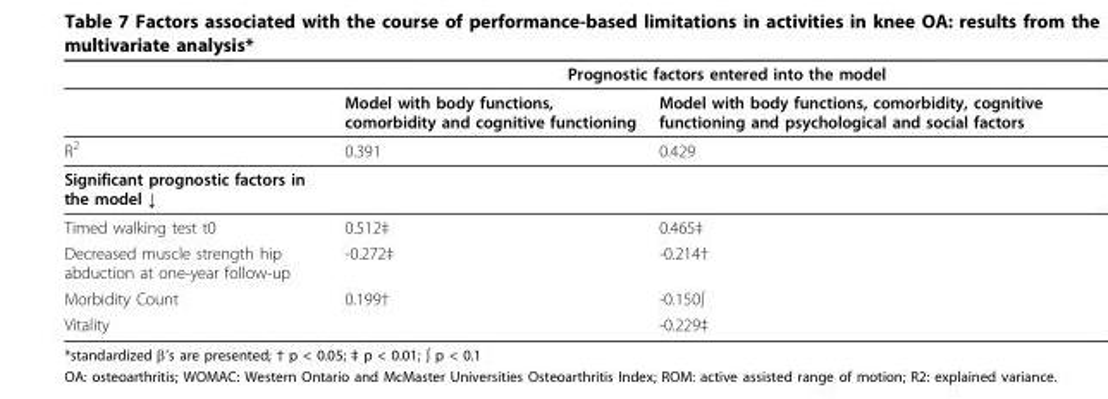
<table><thead><tr><td rowspan="2"></td><td colspan="2">Prognostic factors entered into the model</td></tr><tr><td>Model with body functions, comorbidity and cognitive functioning</td><td>Model with body functions, comorbidity, cognitive functioning and psychological and social factors</td></tr></thead><tbody><tr><td>R<sup>2</sup></td><td>0.391</td><td>0.429</td></tr><tr><td colspan="3">Significant prognostic factors in the model ↓</td></tr><tr><td>Timed walking test t0</td><td>0.512‡</td><td>0.465‡</td></tr><tr><td>Decreased muscle strength hip abduction at one-year follow-up</td><td>-0.272‡</td><td>-0.214†</td></tr><tr><td>Morbidity Count</td><td>0.199†</td><td>-0.150∫</td></tr><tr><td>Vitality</td><td></td><td>-0.229‡</td></tr></tbody></table>